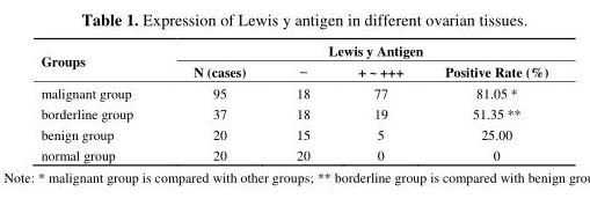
<table><thead><tr><td rowspan="2">Groups</td><td colspan="4">Lewis y Antigen</td></tr><tr><td>N (cases)</td><td>−</td><td>+ ~ +++</td><td>Positive Rate (%)</td></tr></thead><tbody><tr><td>malignant group</td><td>95</td><td>18</td><td>77</td><td>81.05 *</td></tr><tr><td>borderline group</td><td>37</td><td>18</td><td>19</td><td>51.35 **</td></tr><tr><td>benign group</td><td>20</td><td>15</td><td>5</td><td>25.00</td></tr><tr><td>normal group</td><td>20</td><td>20</td><td>0</td><td>0</td></tr></tbody></table>